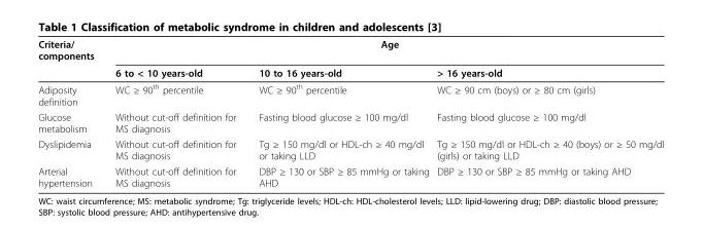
<table><thead><tr><td rowspan="2">Criteria/ components</td><td colspan="3">Age</td></tr><tr><td>6 to &lt; 10 years-old</td><td>10 to 16 years-old</td><td>&gt; 16 years-old</td></tr></thead><tbody><tr><td>Adiposity definition</td><td>WC ≥ 90<sup>th</sup> percentile</td><td>WC ≥ 90<sup>th</sup> percentile</td><td>WC ≥ 90 cm (boys) or ≥ 80 cm (girls)</td></tr><tr><td>Glucose metabolism</td><td>Without cut-off definition for MS diagnosis</td><td>Fasting blood glucose ≥ 100 mg/dl</td><td>Fasting blood glucose ≥ 100 mg/dl</td></tr><tr><td>Dyslipidemia</td><td>Without cut-off definition for MS diagnosis</td><td>Tg ≥ 150 mg/dl or HDL-ch ≥ 40 mg/dl or taking LLD</td><td>Tg ≥ 150 mg/dl or HDL-ch ≥ 40 (boys) or ≥ 50 mg/dl (girls) or taking LLD</td></tr><tr><td>Arterial hypertension</td><td>Without cut-off definition for MS diagnosis</td><td>DBP ≥ 130 or SBP ≥ 85 mmHg or taking AHD</td><td>DBP ≥ 130 or SBP ≥ 85 mmHg or taking AHD</td></tr></tbody></table>